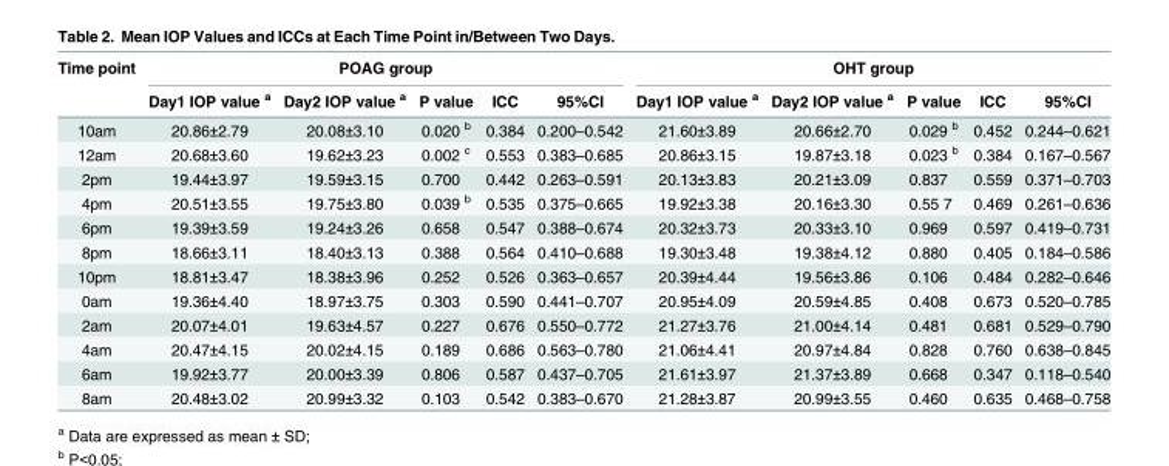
<table><thead><tr><td rowspan="2">Time point</td><td colspan="5">POAG group</td><td colspan="5">OHT group</td></tr><tr><td>Day1 IOP value <sup>a</sup></td><td>Day2 IOP value <sup>a</sup></td><td>P value</td><td>ICC</td><td>95%CI</td><td>Day1 IOP value <sup>a</sup></td><td>Day2 IOP value <sup>a</sup></td><td>P value</td><td>ICC</td><td>95%CI</td></tr></thead><tbody><tr><td>10am</td><td>20.86±2.79</td><td>20.08±3.10</td><td>0.020 <sup>b</sup></td><td>0.384</td><td>0.200–0.542</td><td>21.60±3.89</td><td>20.66±2.70</td><td>0.029 <sup>b</sup></td><td>0.452</td><td>0.244–0.621</td></tr><tr><td>12am</td><td>20.68±3.60</td><td>19.62±3.23</td><td>0.002 <sup>c</sup></td><td>0.553</td><td>0.383–0.685</td><td>20.86±3.15</td><td>19.87±3.18</td><td>0.023 <sup>b</sup></td><td>0.384</td><td>0.167–0.567</td></tr><tr><td>2pm</td><td>19.44±3.97</td><td>19.59±3.15</td><td>0.700</td><td>0.442</td><td>0.263–0.591</td><td>20.13±3.83</td><td>20.21±3.09</td><td>0.837</td><td>0.559</td><td>0.371–0.703</td></tr><tr><td>4pm</td><td>20.51±3.55</td><td>19.75±3.80</td><td>0.039 <sup>b</sup></td><td>0.535</td><td>0.375–0.665</td><td>19.92±3.38</td><td>20.16±3.30</td><td>0.55 7</td><td>0.469</td><td>0.261–0.636</td></tr><tr><td>6pm</td><td>19.39±3.59</td><td>19.24±3.26</td><td>0.658</td><td>0.547</td><td>0.388–0.674</td><td>20.32±3.73</td><td>20.33±3.10</td><td>0.969</td><td>0.597</td><td>0.419–0.731</td></tr><tr><td>8pm</td><td>18.66±3.11</td><td>18.40±3.13</td><td>0.388</td><td>0.564</td><td>0.410–0.688</td><td>19.30±3.48</td><td>19.38±4.12</td><td>0.880</td><td>0.405</td><td>0.184–0.586</td></tr><tr><td>10pm</td><td>18.81±3.47</td><td>18.38±3.96</td><td>0.252</td><td>0.526</td><td>0.363–0.657</td><td>20.39±4.44</td><td>19.56±3.86</td><td>0.106</td><td>0.484</td><td>0.282–0.646</td></tr><tr><td>0am</td><td>19.36±4.40</td><td>18.97±3.75</td><td>0.303</td><td>0.590</td><td>0.441–0.707</td><td>20.95±4.09</td><td>20.59±4.85</td><td>0.408</td><td>0.673</td><td>0.520–0.785</td></tr><tr><td>2am</td><td>20.07±4.01</td><td>19.63±4.57</td><td>0.227</td><td>0.676</td><td>0.550–0.772</td><td>21.27±3.76</td><td>21.00±4.14</td><td>0.481</td><td>0.681</td><td>0.529–0.790</td></tr><tr><td>4am</td><td>20.47±4.15</td><td>20.02±4.15</td><td>0.189</td><td>0.686</td><td>0.563–0.780</td><td>21.06±4.41</td><td>20.97±4.84</td><td>0.828</td><td>0.760</td><td>0.638–0.845</td></tr><tr><td>6am</td><td>19.92±3.77</td><td>20.00±3.39</td><td>0.806</td><td>0.587</td><td>0.437–0.705</td><td>21.61±3.97</td><td>21.37±3.89</td><td>0.668</td><td>0.347</td><td>0.118–0.540</td></tr><tr><td>8am</td><td>20.48±3.02</td><td>20.99±3.32</td><td>0.103</td><td>0.542</td><td>0.383–0.670</td><td>21.28±3.87</td><td>20.99±3.55</td><td>0.460</td><td>0.635</td><td>0.468–0.758</td></tr></tbody></table>